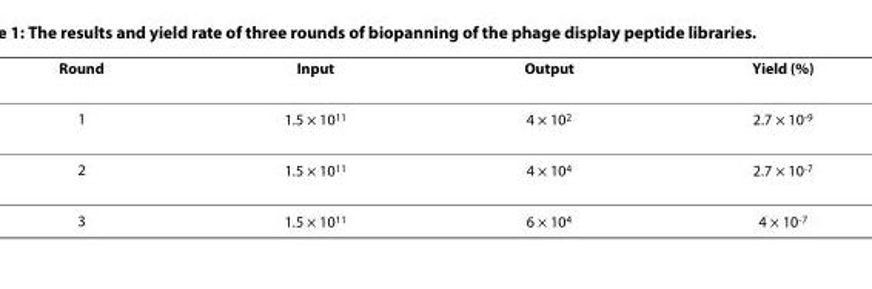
<table><thead><tr><td>Round</td><td>Input</td><td>Output</td><td>Yield (%)</td></tr></thead><tbody><tr><td>1</td><td>1.5 × 10<sup>11</sup></td><td>4 × 10<sup>2</sup></td><td>2.7 × 10<sup>-9</sup></td></tr><tr><td>2</td><td>1.5 × 10<sup>11</sup></td><td>4 × 10<sup>4</sup></td><td>2.7 × 10<sup>-7</sup></td></tr><tr><td>3</td><td>1.5 × 10<sup>11</sup></td><td>6 × 10<sup>4</sup></td><td>4 × 10<sup>-7</sup></td></tr></tbody></table>